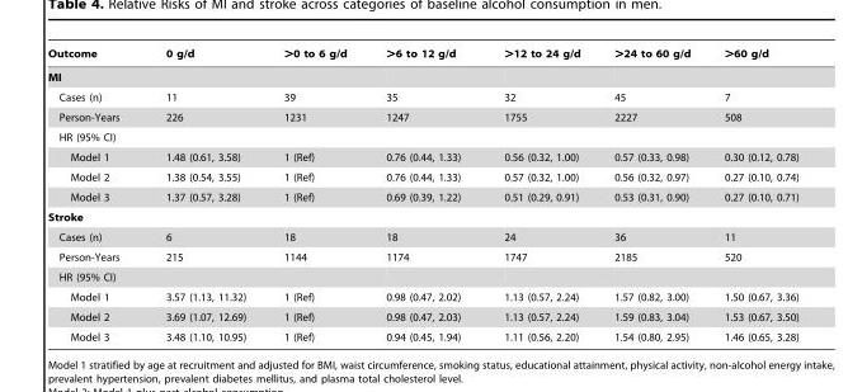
<table><thead><tr><td>Outcome</td><td>0 g/d</td><td>&gt;0 to 6 g/d</td><td>&gt;6 to 12 g/d</td><td>&gt;12 to 24 g/d</td><td>&gt;24 to 60 g/d</td><td>&gt;60 g/d</td></tr></thead><tbody><tr><td colspan="7">MI</td></tr><tr><td>Cases (n)</td><td>11</td><td>39</td><td>35</td><td>32</td><td>45</td><td>7</td></tr><tr><td>Person-Years</td><td>226</td><td>1231</td><td>1247</td><td>1755</td><td>2227</td><td>508</td></tr><tr><td colspan="7">HR (95% CI)</td></tr><tr><td>Model 1</td><td>1.48 (0.61, 3.58)</td><td>1 (Ref)</td><td>0.76 (0.44, 1.33)</td><td>0.56 (0.32, 1.00)</td><td>0.57 (0.33, 0.98)</td><td>0.30 (0.12, 0.78)</td></tr><tr><td>Model 2</td><td>1.38 (0.54, 3.55)</td><td>1 (Ref)</td><td>0.76 (0.44, 1.33)</td><td>0.57 (0.32, 1.00)</td><td>0.56 (0.32, 0.97)</td><td>0.27 (0.10, 0.74)</td></tr><tr><td>Model 3</td><td>1.37 (0.57, 3.28)</td><td>1 (Ref)</td><td>0.69 (0.39, 1.22)</td><td>0.51 (0.29, 0.91)</td><td>0.53 (0.31, 0.90)</td><td>0.27 (0.10, 0.71)</td></tr><tr><td colspan="7">Stroke</td></tr><tr><td>Cases (n)</td><td>6</td><td>18</td><td>18</td><td>24</td><td>36</td><td>11</td></tr><tr><td>Person-Years</td><td>215</td><td>1144</td><td>1174</td><td>1747</td><td>2185</td><td>520</td></tr><tr><td colspan="7">HR (95% CI)</td></tr><tr><td>Model 1</td><td>3.57 (1.13, 11.32)</td><td>1 (Ref)</td><td>0.98 (0.47, 2.02)</td><td>1.13 (0.57, 2.24)</td><td>1.57 (0.82, 3.00)</td><td>1.50 (0.67, 3.36)</td></tr><tr><td>Model 2</td><td>3.69 (1.07, 12.69)</td><td>1 (Ref)</td><td>0.98 (0.47, 2.03)</td><td>1.13 (0.57, 2.24)</td><td>1.59 (0.83, 3.04)</td><td>1.53 (0.67, 3.50)</td></tr><tr><td>Model 3</td><td>3.48 (1.10, 10.95)</td><td>1 (Ref)</td><td>0.94 (0.45, 1.94)</td><td>1.11 (0.56, 2.20)</td><td>1.54 (0.80, 2.95)</td><td>1.46 (0.65, 3.28)</td></tr></tbody></table>